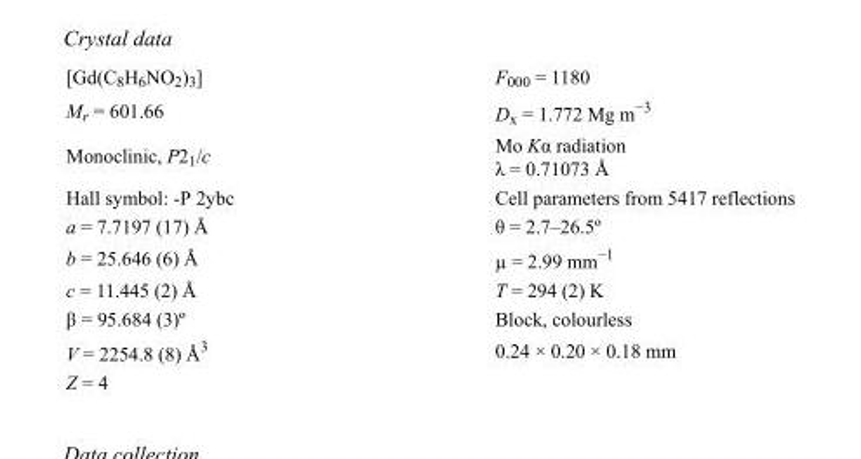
<table><tbody><tr><td>[Gd(C<sub>8</sub>H<sub>6</sub>NO<sub>2</sub>)<sub>3</sub>]</td><td>F<sub>000</sub> = 1180</td></tr><tr><td>M<sub>r</sub> = 601.66</td><td>D<sub>x</sub> = 1.772 Mg m<sup>−3</sup></td></tr><tr><td>Monoclinic, P2<sub>1</sub>/c</td><td>Mo Kα radiation λ = 0.71073 Å</td></tr><tr><td>Hall symbol: -P 2ybc</td><td>Cell parameters from 5417 reflections</td></tr><tr><td>a = 7.7197 (17) Å</td><td>θ = 2.7–26.5º</td></tr><tr><td>b = 25.646 (6) Å</td><td>µ = 2.99 mm<sup>−1</sup></td></tr><tr><td>c = 11.445 (2) Å</td><td>T = 294 (2) K</td></tr><tr><td>β = 95.684 (3)º</td><td>Block, colourless</td></tr><tr><td>V = 2254.8 (8) Å<sup>3</sup></td><td>0.24 × 0.20 × 0.18 mm</td></tr><tr><td>Z = 4</td><td></td></tr></tbody></table>